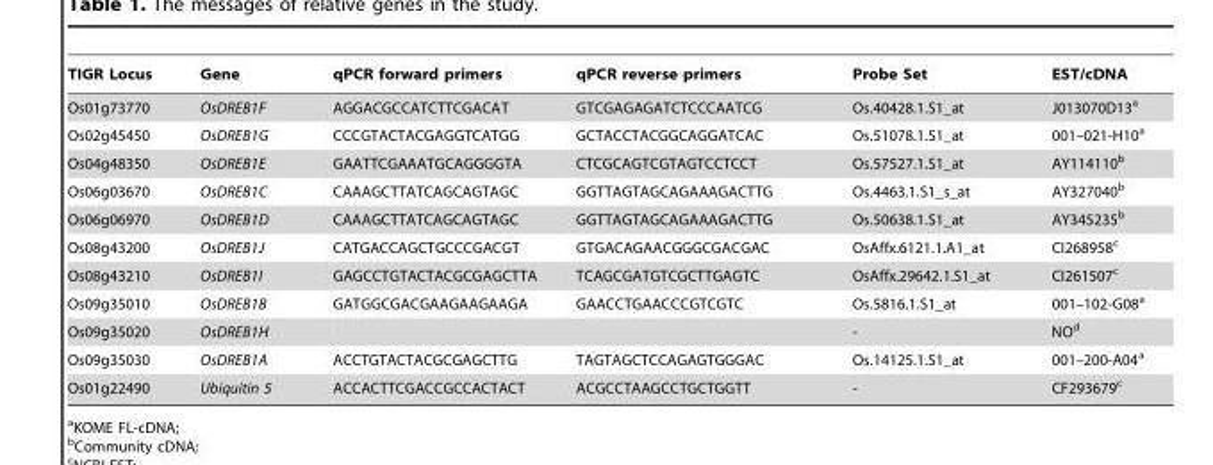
<table><thead><tr><td>TIGR Locus</td><td>Gene</td><td>qPCR forward primers</td><td>qPCR reverse primers</td><td>Probe Set</td><td>EST/cDNA</td></tr></thead><tbody><tr><td>Os01g73770</td><td>OsDREB1F</td><td>AGGACGCCATCTTCGACAT</td><td>GTCGAGAGATCTCCCAATCG</td><td>Os.40428.1.S1_at</td><td>J013070D13<sup>a</sup></td></tr><tr><td>Os02g45450</td><td>OsDREB1G</td><td>CCCGTACTACGAGGTCATGG</td><td>GCTACCTACGGCAGGATCAC</td><td>Os.51078.1.S1_at</td><td>001–021-H10<sup>a</sup></td></tr><tr><td>Os04g48350</td><td>OsDREB1E</td><td>GAATTCGAAATGCAGGGGTA</td><td>CTCGCAGTCGTAGTCCTCCT</td><td>Os.57527.1.S1_at</td><td>AY114110<sup>b</sup></td></tr><tr><td>Os06g03670</td><td>OsDREB1C</td><td>CAAAGCTTATCAGCAGTAGC</td><td>GGTTAGTAGCAGAAAGACTTG</td><td>Os.4463.1.S1_s_at</td><td>AY327040<sup>b</sup></td></tr><tr><td>Os06g06970</td><td>OsDREB1D</td><td>CAAAGCTTATCAGCAGTAGC</td><td>GGTTAGTAGCAGAAAGACTTG</td><td>Os.50638.1.S1_at</td><td>AY345235<sup>b</sup></td></tr><tr><td>Os08g43200</td><td>OsDREB1J</td><td>CATGACCAGCTGCCCGACGT</td><td>GTGACAGAACGGGCGACGAC</td><td>OsAffx.6121.1.A1_at</td><td>CI268958<sup>c</sup></td></tr><tr><td>Os08g43210</td><td>OsDREB1I</td><td>GAGCCTGTACTACGCGAGCTTA</td><td>TCAGCGATGTCGCTTGAGTC</td><td>OsAffx.29642.1.S1_at</td><td>CI261507<sup>c</sup></td></tr><tr><td>Os09g35010</td><td>OsDREB1B</td><td>GATGGCGACGAAGAAGAAGA</td><td>GAACCTGAACCCGTCGTC</td><td>Os.5816.1.S1_at</td><td>001–102-G08<sup>a</sup></td></tr><tr><td>Os09g35020</td><td>OsDREB1H</td><td></td><td></td><td>-</td><td>NO<sup>d</sup></td></tr><tr><td>Os09g35030</td><td>OsDREB1A</td><td>ACCTGTACTACGCGAGCTTG</td><td>TAGTAGCTCCAGAGTGGGAC</td><td>Os.14125.1.S1_at</td><td>001–200-A04<sup>a</sup></td></tr><tr><td>Os01g22490</td><td>Ubiquitin 5</td><td>ACCACTTCGACCGCCACTACT</td><td>ACGCCTAAGCCTGCTGGTT</td><td>-</td><td>CF293679<sup>c</sup></td></tr></tbody></table>